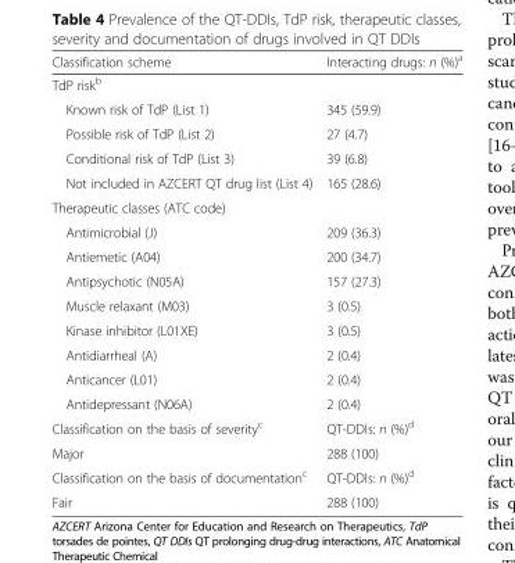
<table><thead><tr><td>Classification scheme</td><td>Interacting drugs: n (%)<sup>a</sup></td></tr></thead><tbody><tr><td colspan="2">TdP risk<sup>b</sup></td></tr><tr><td>Known risk of TdP (List 1)</td><td>345 (59.9)</td></tr><tr><td>Possible risk of TdP (List 2)</td><td>27 (4.7)</td></tr><tr><td>Conditional risk of TdP (List 3)</td><td>39 (6.8)</td></tr><tr><td>Not included in AZCERT QT drug list (List 4)</td><td>165 (28.6)</td></tr><tr><td colspan="2">Therapeutic classes (ATC code)</td></tr><tr><td>Antimicrobial (J)</td><td>209 (36.3)</td></tr><tr><td>Antiemetic (A04)</td><td>200 (34.7)</td></tr><tr><td>Antipsychotic (N05A)</td><td>157 (27.3)</td></tr><tr><td>Muscle relaxant (M03)</td><td>3 (0.5)</td></tr><tr><td>Kinase inhibitor (L01XE)</td><td>3 (0.5)</td></tr><tr><td>Antidiarrheal (A)</td><td>2 (0.4)</td></tr><tr><td>Anticancer (L01)</td><td>2 (0.4)</td></tr><tr><td>Antidepressant (N06A)</td><td>2 (0.4)</td></tr><tr><td>Classification on the basis of severity<sup>c</sup></td><td>QT-DDIs: n (%)<sup>d</sup></td></tr><tr><td>Major</td><td>288 (100)</td></tr><tr><td>Classification on the basis of documentation<sup>c</sup></td><td>QT-DDIs: n (%)<sup>d</sup></td></tr><tr><td>Fair</td><td>288 (100)</td></tr></tbody></table>